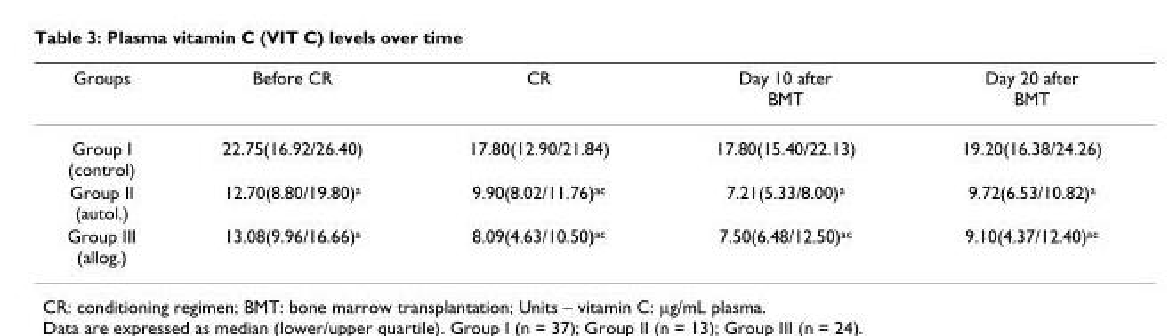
<table><thead><tr><td>Groups</td><td>Before CR</td><td>CR</td><td>Day 10 after BMT</td><td>Day 20 after BMT</td></tr></thead><tbody><tr><td>Group I (control)</td><td>22.75(16.92/26.40)</td><td>17.80(12.90/21.84)</td><td>17.80(15.40/22.13)</td><td>19.20(16.38/24.26)</td></tr><tr><td>Group II (autol.)</td><td>12.70(8.80/19.80)<sup>a</sup></td><td>9.90(8.02/11.76)<sup>ac</sup></td><td>7.21(5.33/8.00)<sup>a</sup></td><td>9.72(6.53/10.82)<sup>a</sup></td></tr><tr><td>Group III (allog.)</td><td>13.08(9.96/16.66)<sup>a</sup></td><td>8.09(4.63/10.50)<sup>ac</sup></td><td>7.50(6.48/12.50)<sup>ac</sup></td><td>9.10(4.37/12.40)<sup>ac</sup></td></tr></tbody></table>